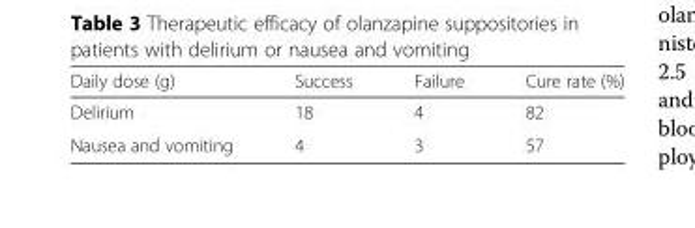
<table><thead><tr><td>Daily dose (g)</td><td>Success</td><td>Failure</td><td>Cure rate (%)</td></tr></thead><tbody><tr><td>Delirium</td><td>18</td><td>4</td><td>82</td></tr><tr><td>Nausea and vomiting</td><td>4</td><td>3</td><td>57</td></tr></tbody></table>